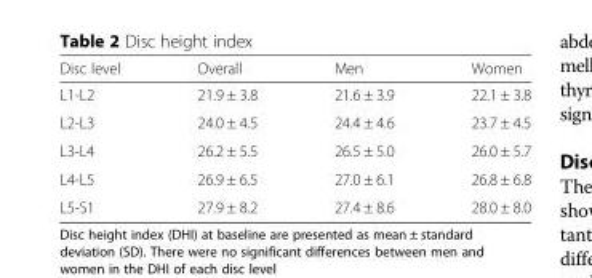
<table><thead><tr><td>Disc level</td><td>Overall</td><td>Men</td><td>Women</td></tr></thead><tbody><tr><td>L1-L2</td><td>21.9 ± 3.8</td><td>21.6 ± 3.9</td><td>22.1 ± 3.8</td></tr><tr><td>L2-L3</td><td>24.0 ± 4.5</td><td>24.4 ± 4.6</td><td>23.7 ± 4.5</td></tr><tr><td>L3-L4</td><td>26.2 ± 5.5</td><td>26.5 ± 5.0</td><td>26.0 ± 5.7</td></tr><tr><td>L4-L5</td><td>26.9 ± 6.5</td><td>27.0 ± 6.1</td><td>26.8 ± 6.8</td></tr><tr><td>L5-S1</td><td>27.9 ± 8.2</td><td>27.4 ± 8.6</td><td>28.0 ± 8.0</td></tr></tbody></table>